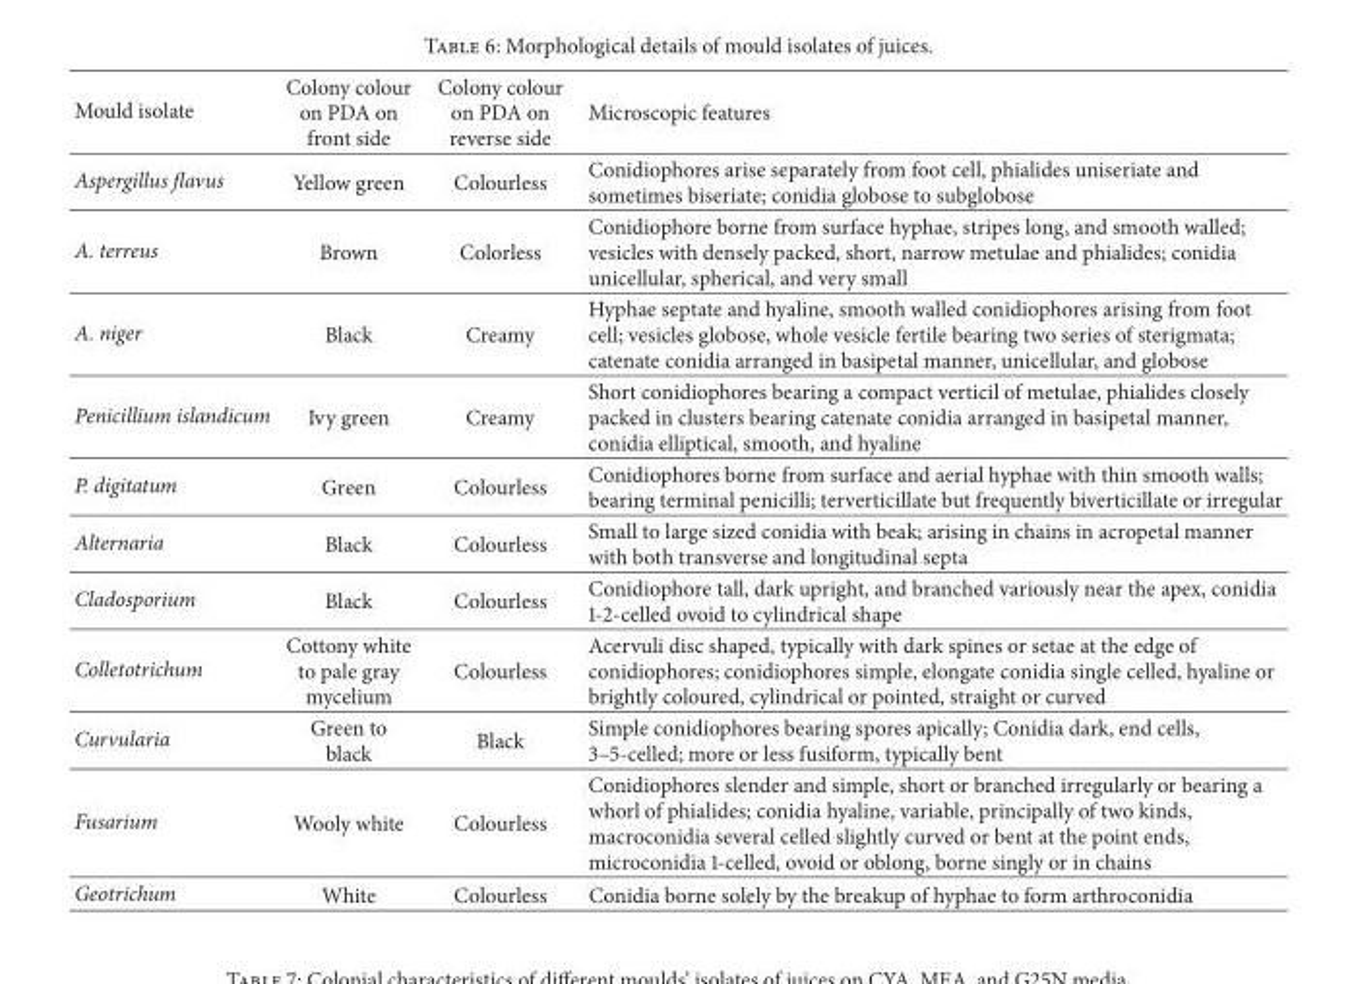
<table><thead><tr><td>Mould isolate</td><td>Colony colour on PDA on front side</td><td>Colony colour on PDA on reverse side</td><td>Microscopic features</td></tr></thead><tbody><tr><td>Aspergillus flavus</td><td>Yellow green</td><td>Colourless</td><td>Conidiophores arise separately from foot cell, phialides uniseriate and sometimes biseriate; conidia globose to subglobose</td></tr><tr><td>A. terreus</td><td>Brown</td><td>Colorless</td><td>Conidiophore borne from surface hyphae, stripes long, and smooth walled; vesicles with densely packed, short, narrow metulae and phialides; conidia unicellular, spherical, and very small</td></tr><tr><td>A. niger</td><td>Black</td><td>Creamy</td><td>Hyphae septate and hyaline, smooth walled conidiophores arising from foot cell; vesicles globose, whole vesicle fertile bearing two series of sterigmata; catenate conidia arranged in basipetal manner, unicellular, and globose</td></tr><tr><td>Penicillium islandicum</td><td>Ivy green</td><td>Creamy</td><td>Short conidiophores bearing a compact verticil of metulae, phialides closely packed in clusters bearing catenate conidia arranged in basipetal manner, conidia elliptical, smooth, and hyaline</td></tr><tr><td>P. digitatum</td><td>Green</td><td>Colourless</td><td>Conidiophores borne from surface and aerial hyphae with thin smooth walls; bearing terminal penicilli; terverticillate but frequently biverticillate or irregular</td></tr><tr><td>Alternaria</td><td>Black</td><td>Colourless</td><td>Small to large sized conidia with beak; arising in chains in acropetal manner with both transverse and longitudinal septa</td></tr><tr><td>Cladosporium</td><td>Black</td><td>Colourless</td><td>Conidiophore tall, dark upright, and branched variously near the apex, conidia 1-2-celled ovoid to cylindrical shape</td></tr><tr><td>Colletotrichum</td><td>Cottony white to pale gray mycelium</td><td>Colourless</td><td>Acervuli disc shaped, typically with dark spines or setae at the edge of conidiophores; conidiophores simple, elongate conidia single celled, hyaline or brightly coloured, cylindrical or pointed, straight or curved</td></tr><tr><td>Curvularia</td><td>Green to black</td><td>Black</td><td>Simple conidiophores bearing spores apically; Conidia dark, end cells, 3–5-celled; more or less fusiform, typically bent</td></tr><tr><td>Fusarium</td><td>Wooly white</td><td>Colourless</td><td>Conidiophores slender and simple, short or branched irregularly or bearing a whorl of phialides; conidia hyaline, variable, principally of two kinds, macroconidia several celled slightly curved or bent at the point ends, microconidia 1-celled, ovoid or oblong, borne singly or in chains</td></tr><tr><td>Geotrichum</td><td>White</td><td>Colourless</td><td>Conidia borne solely by the breakup of hyphae to form arthroconidia</td></tr></tbody></table>